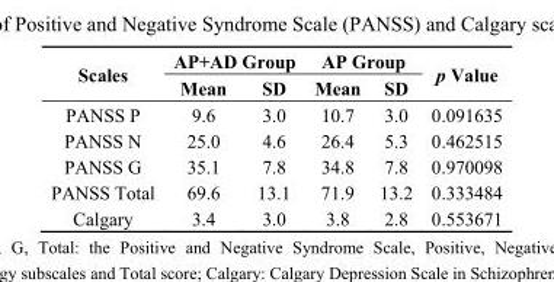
<table><thead><tr><td rowspan="2">Scales</td><td colspan="2">AP+AD Group</td><td colspan="2">AP Group</td><td rowspan="2">p Value</td></tr><tr><td>Mean</td><td>SD</td><td>Mean</td><td>SD</td></tr></thead><tbody><tr><td>PANSS P</td><td>9.6</td><td>3.0</td><td>10.7</td><td>3.0</td><td>0.091635</td></tr><tr><td>PANSS N</td><td>25.0</td><td>4.6</td><td>26.4</td><td>5.3</td><td>0.462515</td></tr><tr><td>PANSS G</td><td>35.1</td><td>7.8</td><td>34.8</td><td>7.8</td><td>0.970098</td></tr><tr><td>PANSS Total</td><td>69.6</td><td>13.1</td><td>71.9</td><td>13.2</td><td>0.333484</td></tr><tr><td>Calgary</td><td>3.4</td><td>3.0</td><td>3.8</td><td>2.8</td><td>0.553671</td></tr></tbody></table>